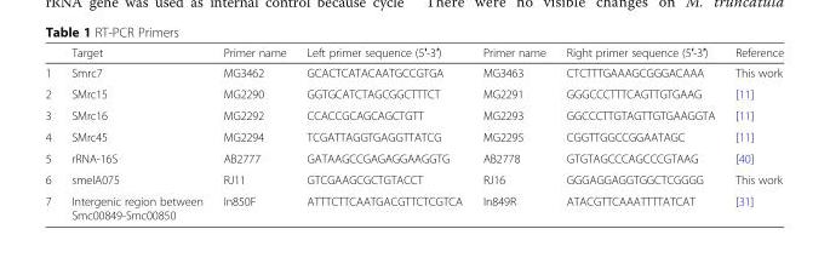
<table><thead><tr><td></td><td>Target</td><td>Primer name</td><td>Left primer sequence (5′-3′)</td><td>Primer name</td><td>Right primer sequence (5′-3′)</td><td>Reference</td></tr></thead><tbody><tr><td>1</td><td>Smrc7</td><td>MG3462</td><td>GCACTCATACAATGCCGTGA</td><td>MG3463</td><td>CTCTTTGAAAGCGGGACAAA</td><td>This work</td></tr><tr><td>2</td><td>SMrc15</td><td>MG2290</td><td>GGTGCATCTAGCGGCTTTCT</td><td>MG2291</td><td>GGGCCCTTTCAGTTGTGAAG</td><td>[11]</td></tr><tr><td>3</td><td>SMrc16</td><td>MG2292</td><td>CCACCGCAGCAGCTGTT</td><td>MG2293</td><td>GGCCCTTGTAGTTGTGAAGGTA</td><td>[11]</td></tr><tr><td>4</td><td>SMrc45</td><td>MG2294</td><td>TCGATTAGGTGAGGTTATCG</td><td>MG2295</td><td>CGGTTGGCCGGAATAGC</td><td>[11]</td></tr><tr><td>5</td><td>rRNA-16S</td><td>AB2777</td><td>GATAAGCCGAGAGGAAGGTG</td><td>AB2778</td><td>GTGTAGCCCAGCCCGTAAG</td><td>[40]</td></tr><tr><td>6</td><td>smelA075</td><td>RJ11</td><td>GTCGAAGCGCTGTACCT</td><td>RJ16</td><td>GGGAGGAGGTGGCTCGGGG</td><td>This work</td></tr><tr><td>7</td><td>Intergenic region between Smc00849-Smc00850</td><td>In850F</td><td>ATTTCTTCAATGACGTTCTCGTCA</td><td>In849R</td><td>ATACGTTCAAATTTTATCAT</td><td>[31]</td></tr></tbody></table>